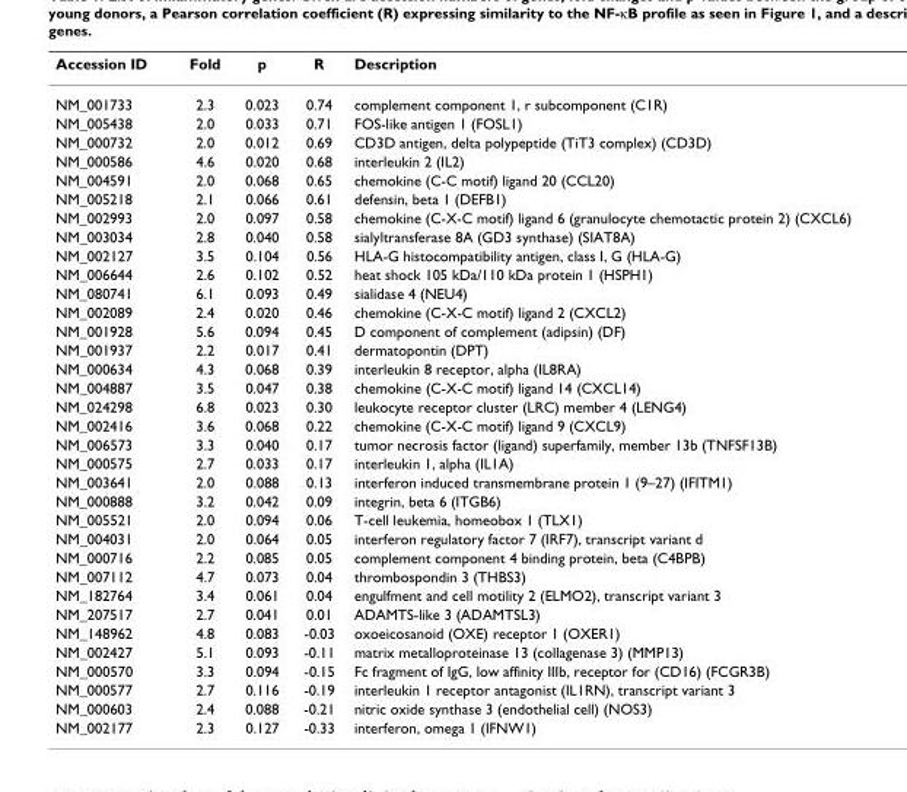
<table><thead><tr><td>Accession ID</td><td>Fold</td><td>p</td><td>R</td><td>Description</td></tr></thead><tbody><tr><td>NM_001733</td><td>2.3</td><td>0.023</td><td>0.74</td><td>complement component 1, r subcomponent (C1R)</td></tr><tr><td>NM_005438</td><td>2.0</td><td>0.033</td><td>0.71</td><td>FOS-like antigen 1 (FOSL1)</td></tr><tr><td>NM_000732</td><td>2.0</td><td>0.012</td><td>0.69</td><td>CD3D antigen, delta polypeptide (TiT3 complex) (CD3D)</td></tr><tr><td>NM_000586</td><td>4.6</td><td>0.020</td><td>0.68</td><td>interleukin 2 (IL2)</td></tr><tr><td>NM_004591</td><td>2.0</td><td>0.068</td><td>0.65</td><td>chemokine (C-C motif) ligand 20 (CCL20)</td></tr><tr><td>NM_005218</td><td>2.1</td><td>0.066</td><td>0.61</td><td>defensin, beta 1 (DEFB1)</td></tr><tr><td>NM_002993</td><td>2.0</td><td>0.097</td><td>0.58</td><td>chemokine (C-X-C motif) ligand 6 (granulocyte chemotactic protein 2) (CXCL6)</td></tr><tr><td>NM_003034</td><td>2.8</td><td>0.040</td><td>0.58</td><td>sialyltransferase 8A (GD3 synthase) (SIAT8A)</td></tr><tr><td>NM_002127</td><td>3.5</td><td>0.104</td><td>0.56</td><td>HLA-G histocompatibility antigen, class I, G (HLA-G)</td></tr><tr><td>NM_006644</td><td>2.6</td><td>0.102</td><td>0.52</td><td>heat shock 105 kDa/110 kDa protein 1 (HSPH1)</td></tr><tr><td>NM_080741</td><td>6.1</td><td>0.093</td><td>0.49</td><td>sialidase 4 (NEU4)</td></tr><tr><td>NM_002089</td><td>2.4</td><td>0.020</td><td>0.46</td><td>chemokine (C-X-C motif) ligand 2 (CXCL2)</td></tr><tr><td>NM_001928</td><td>5.6</td><td>0.094</td><td>0.45</td><td>D component of complement (adipsin) (DF)</td></tr><tr><td>NM_001937</td><td>2.2</td><td>0.017</td><td>0.41</td><td>dermatopontin (DPT)</td></tr><tr><td>NM_000634</td><td>4.3</td><td>0.068</td><td>0.39</td><td>interleukin 8 receptor, alpha (IL8RA)</td></tr><tr><td>NM_004887</td><td>3.5</td><td>0.047</td><td>0.38</td><td>chemokine (C-X-C motif) ligand 14 (CXCL14)</td></tr><tr><td>NM_024298</td><td>6.8</td><td>0.023</td><td>0.30</td><td>leukocyte receptor cluster (LRC) member 4 (LENG4)</td></tr><tr><td>NM_002416</td><td>3.6</td><td>0.068</td><td>0.22</td><td>chemokine (C-X-C motif) ligand 9 (CXCL9)</td></tr><tr><td>NM_006573</td><td>3.3</td><td>0.040</td><td>0.17</td><td>tumor necrosis factor (ligand) superfamily, member 13b (TNFSF13B)</td></tr><tr><td>NM_000575</td><td>2.7</td><td>0.033</td><td>0.17</td><td>interleukin 1, alpha (IL1A)</td></tr><tr><td>NM_003641</td><td>2.0</td><td>0.088</td><td>0.13</td><td>interferon induced transmembrane protein 1 (9–27) (IFITM1)</td></tr><tr><td>NM_000888</td><td>3.2</td><td>0.042</td><td>0.09</td><td>integrin, beta 6 (ITGB6)</td></tr><tr><td>NM_005521</td><td>2.0</td><td>0.094</td><td>0.06</td><td>T-cell leukemia, homeobox 1 (TLX1)</td></tr><tr><td>NM_004031</td><td>2.0</td><td>0.064</td><td>0.05</td><td>interferon regulatory factor 7 (IRF7), transcript variant d</td></tr><tr><td>NM_000716</td><td>2.2</td><td>0.085</td><td>0.05</td><td>complement component 4 binding protein, beta (C4BPB)</td></tr><tr><td>NM_007112</td><td>4.7</td><td>0.073</td><td>0.04</td><td>thrombospondin 3 (THBS3)</td></tr><tr><td>NM_182764</td><td>3.4</td><td>0.061</td><td>0.04</td><td>engulfment and cell motility 2 (ELMO2), transcript variant 3</td></tr><tr><td>NM_207517</td><td>2.7</td><td>0.041</td><td>0.01</td><td>ADAMTS-like 3 (ADAMTSL3)</td></tr><tr><td>NM_148962</td><td>4.8</td><td>0.083</td><td>-0.03</td><td>oxoeicosanoid (OXE) receptor 1 (OXER1)</td></tr><tr><td>NM_002427</td><td>5.1</td><td>0.093</td><td>-0.11</td><td>matrix metalloproteinase 13 (collagenase 3) (MMP13)</td></tr><tr><td>NM_000570</td><td>3.3</td><td>0.094</td><td>-0.15</td><td>Fc fragment of IgG, low affinity IIIb, receptor for (CD16) (FCGR3B)</td></tr><tr><td>NM_000577</td><td>2.7</td><td>0.116</td><td>-0.19</td><td>interleukin 1 receptor antagonist (IL1RN), transcript variant 3</td></tr><tr><td>NM_000603</td><td>2.4</td><td>0.088</td><td>-0.21</td><td>nitric oxide synthase 3 (endothelial cell) (NOS3)</td></tr><tr><td>NM_002177</td><td>2.3</td><td>0.127</td><td>-0.33</td><td>interferon, omega 1 (IFNW1)</td></tr></tbody></table>